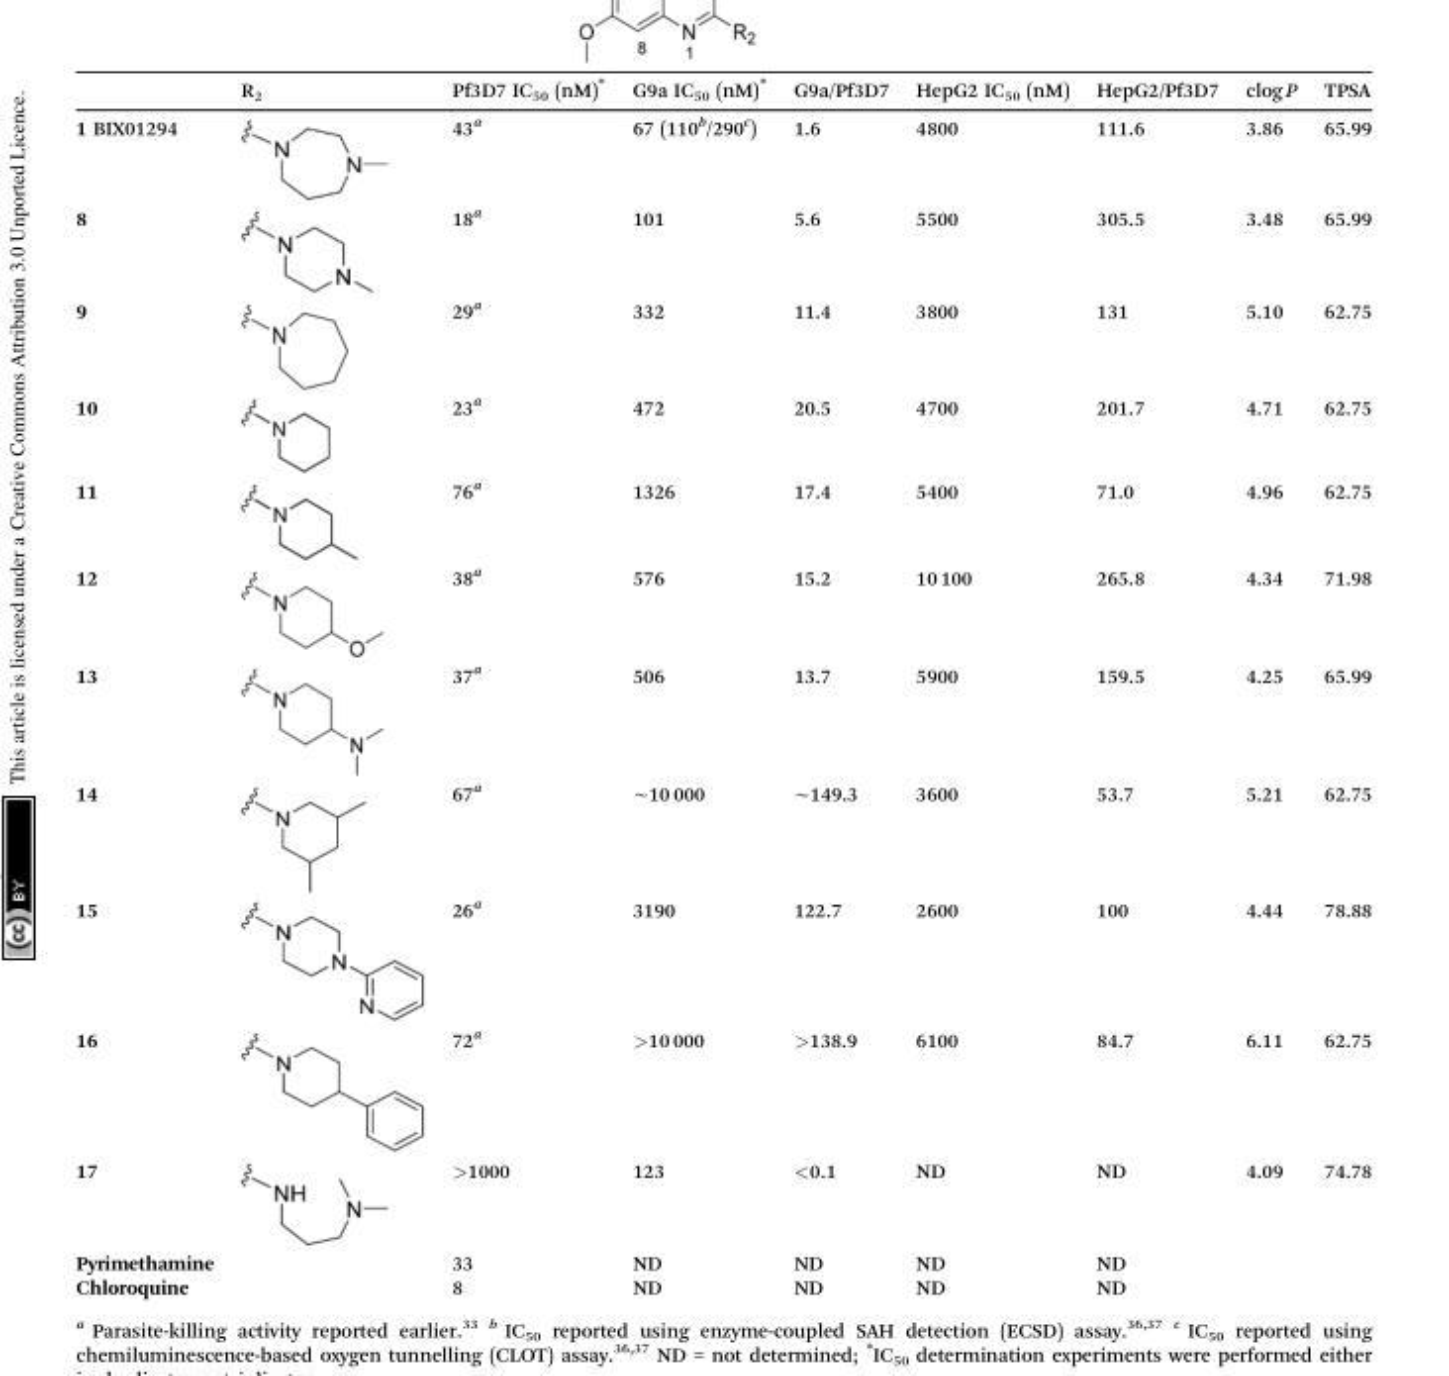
<table><thead><tr><td></td><td>R<sub>2</sub></td><td>Pf3D7 IC<sub>50</sub> (nM)*</td><td>G9a IC<sub>50</sub> (nM)*</td><td>G9a/Pf3D7</td><td>HepG2 IC<sub>50</sub> (nM)</td><td>HepG2/Pf3D7</td><td>clog P</td><td>TPSA</td></tr></thead><tbody><tr><td>1 BIX01294</td><td></td><td>43<sup>a</sup></td><td>67 (110<sup>b</sup>/290<sup>c</sup>)</td><td>1.6</td><td>4800</td><td>111.6</td><td>3.86</td><td>65.99</td></tr><tr><td>8</td><td></td><td>18<sup>a</sup></td><td>101</td><td>5.6</td><td>5500</td><td>305.5</td><td>3.48</td><td>65.99</td></tr><tr><td>9</td><td></td><td>29<sup>a</sup></td><td>332</td><td>11.4</td><td>3800</td><td>131</td><td>5.10</td><td>62.75</td></tr><tr><td>10</td><td></td><td>23<sup>a</sup></td><td>472</td><td>20.5</td><td>4700</td><td>201.7</td><td>4.71</td><td>62.75</td></tr><tr><td>11</td><td></td><td>76<sup>a</sup></td><td>1326</td><td>17.4</td><td>5400</td><td>71.0</td><td>4.96</td><td>62.75</td></tr><tr><td>12</td><td></td><td>38<sup>a</sup></td><td>576</td><td>15.2</td><td>10 100</td><td>265.8</td><td>4.34</td><td>71.98</td></tr><tr><td>13</td><td></td><td>37<sup>a</sup></td><td>506</td><td>13.7</td><td>5900</td><td>159.5</td><td>4.25</td><td>65.99</td></tr><tr><td>14</td><td></td><td>67<sup>a</sup></td><td>∼10 000</td><td>∼149.3</td><td>3600</td><td>53.7</td><td>5.21</td><td>62.75</td></tr><tr><td>15</td><td></td><td>26<sup>a</sup></td><td>3190</td><td>122.7</td><td>2600</td><td>100</td><td>4.44</td><td>78.88</td></tr><tr><td>16</td><td></td><td>72<sup>a</sup></td><td>&gt;10 000</td><td>&gt;138.9</td><td>6100</td><td>84.7</td><td>6.11</td><td>62.75</td></tr><tr><td>17</td><td></td><td>&gt;1000</td><td>123</td><td>&lt;0.1</td><td>ND</td><td>ND</td><td>4.09</td><td>74.78</td></tr><tr><td>Pyrimethamine</td><td></td><td>33</td><td>ND</td><td>ND</td><td>ND</td><td>ND</td><td></td><td></td></tr><tr><td>Chloroquine</td><td></td><td>8</td><td>ND</td><td>ND</td><td>ND</td><td>ND</td><td></td><td></td></tr></tbody></table>